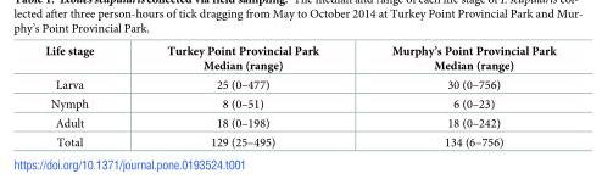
<table><thead><tr><td>Life stage</td><td>Turkey Point Provincial Park Median (range)</td><td>Murphy’s Point Provincial Park Median (range)</td></tr></thead><tbody><tr><td>Larva</td><td>25 (0–477)</td><td>30 (0–756)</td></tr><tr><td>Nymph</td><td>8 (0–51)</td><td>6 (0–23)</td></tr><tr><td>Adult</td><td>18 (0–198)</td><td>18 (0–242)</td></tr><tr><td>Total</td><td>129 (25–495)</td><td>134 (6–756)</td></tr></tbody></table>